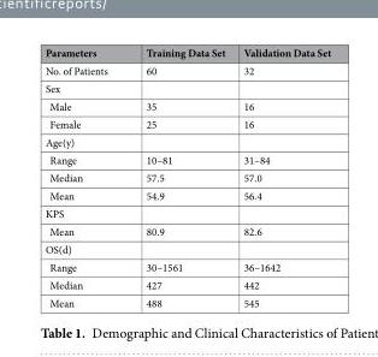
<table><thead><tr><td>Parameters</td><td>Training Data Set</td><td>Validation Data Set</td></tr></thead><tbody><tr><td>No. of Patients</td><td>60</td><td>32</td></tr><tr><td colspan="3">Sex</td></tr><tr><td>Male</td><td>35</td><td>16</td></tr><tr><td>Female</td><td>25</td><td>16</td></tr><tr><td colspan="3">Age(y)</td></tr><tr><td>Range</td><td>10–81</td><td>31–84</td></tr><tr><td>Median</td><td>57.5</td><td>57.0</td></tr><tr><td>Mean</td><td>54.9</td><td>56.4</td></tr><tr><td colspan="3">KPS</td></tr><tr><td>Mean</td><td>80.9</td><td>82.6</td></tr><tr><td colspan="3">OS(d)</td></tr><tr><td>Range</td><td>30–1561</td><td>36–1642</td></tr><tr><td>Median</td><td>427</td><td>442</td></tr><tr><td>Mean</td><td>488</td><td>545</td></tr></tbody></table>